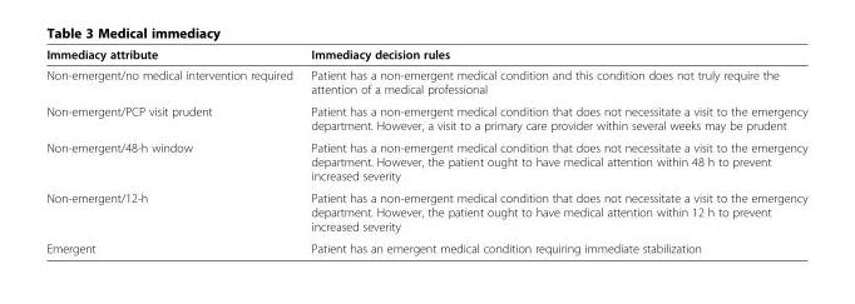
<table><thead><tr><td>Immediacy attribute</td><td>Immediacy decision rules</td></tr></thead><tbody><tr><td>Non-emergent/no medical intervention required</td><td>Patient has a non-emergent medical condition and this condition does not truly require the attention of a medical professional</td></tr><tr><td>Non-emergent/PCP visit prudent</td><td>Patient has a non-emergent medical condition that does not necessitate a visit to the emergency department. However, a visit to a primary care provider within several weeks may be prudent</td></tr><tr><td>Non-emergent/48-h window</td><td>Patient has a non-emergent medical condition that does not necessitate a visit to the emergency department. However, the patient ought to have medical attention within 48 h to prevent increased severity</td></tr><tr><td>Non-emergent/12-h</td><td>Patient has a non-emergent medical condition that does not necessitate a visit to the emergency department. However, the patient ought to have medical attention within 12 h to prevent increased severity</td></tr><tr><td>Emergent</td><td>Patient has an emergent medical condition requiring immediate stabilization</td></tr></tbody></table>